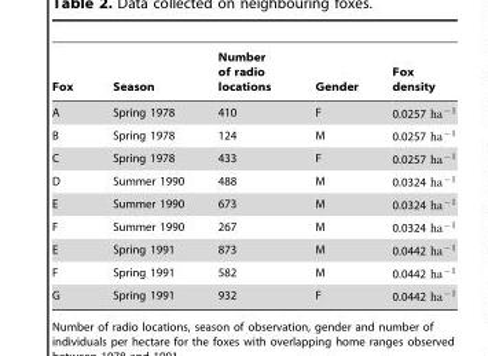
<table><thead><tr><td>Fox</td><td>Season</td><td>Number of radio locations</td><td>Gender</td><td>Fox density</td></tr></thead><tbody><tr><td>A</td><td>Spring 1978</td><td>410</td><td>F</td><td>0.0257</td></tr><tr><td>B</td><td>Spring 1978</td><td>124</td><td>M</td><td>0.0257</td></tr><tr><td>C</td><td>Spring 1978</td><td>433</td><td>F</td><td>0.0257</td></tr><tr><td>D</td><td>Summer 1990</td><td>488</td><td>M</td><td>0.0324</td></tr><tr><td>E</td><td>Summer 1990</td><td>673</td><td>M</td><td>0.0324</td></tr><tr><td>F</td><td>Summer 1990</td><td>267</td><td>M</td><td>0.0324</td></tr><tr><td>E</td><td>Spring 1991</td><td>873</td><td>M</td><td>0.0442</td></tr><tr><td>F</td><td>Spring 1991</td><td>582</td><td>M</td><td>0.0442</td></tr><tr><td>G</td><td>Spring 1991</td><td>932</td><td>F</td><td>0.0442</td></tr></tbody></table>